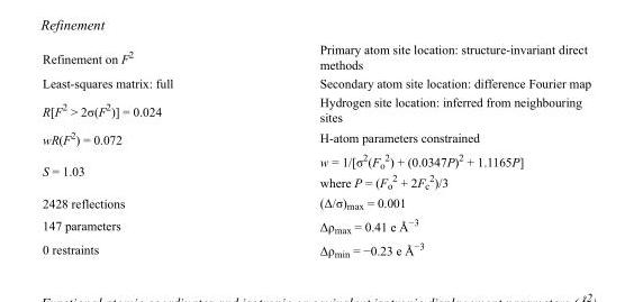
<table><tbody><tr><td>Refinement on F<sup>2</sup></td><td>Primary atom site location: structure-invariant direct methods</td></tr><tr><td>Least-squares matrix: full</td><td>Secondary atom site location: difference Fourier map</td></tr><tr><td>R[F<sup>2</sup> &gt; 2σ(F<sup>2</sup>)] = 0.024</td><td>Hydrogen site location: inferred from neighbouring sites</td></tr><tr><td>wR(F<sup>2</sup>) = 0.072</td><td>H-atom parameters constrained</td></tr><tr><td>S = 1.03</td><td>w = 1/[σ<sup>2</sup>(F<sub>o</sub> <sup>2</sup>) + (0.0347P)<sup>2</sup> + 1.1165P] where P = (F<sub>o</sub> <sup>2</sup> + 2F<sub>c</sub> <sup>2</sup>)/3</td></tr><tr><td>2428 reflections</td><td>(Δ/σ)<sub>max</sub> = 0.001</td></tr><tr><td>147 parameters</td><td>Δρ<sub>max</sub> = 0.41 e Å<sup>−3</sup></td></tr><tr><td>0 restraints</td><td>Δρ<sub>min</sub> = −0.23 e Å<sup>−3</sup></td></tr></tbody></table>